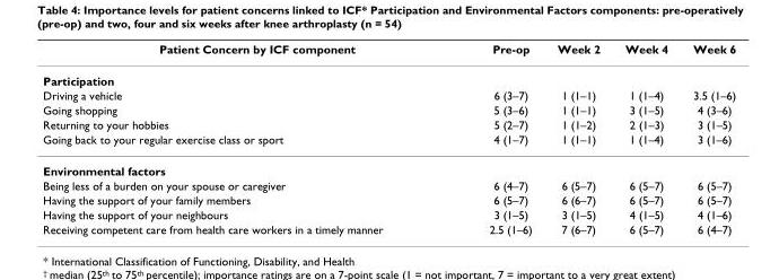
<table><thead><tr><td>Patient Concern by ICF component</td><td>Pre-op</td><td>Week 2</td><td>Week 4</td><td>Week 6</td></tr></thead><tbody><tr><td colspan="5">Participation</td></tr><tr><td>Driving a vehicle</td><td>6 (3–7)</td><td>1 (1–1)</td><td>1 (1–4)</td><td>3.5 (1–6)</td></tr><tr><td>Going shopping</td><td>5 (3–6)</td><td>1 (1–1)</td><td>3 (1–5)</td><td>4 (3–6)</td></tr><tr><td>Returning to your hobbies</td><td>5 (2–7)</td><td>1 (1–2)</td><td>2 (1–3)</td><td>3 (1–5)</td></tr><tr><td>Going back to your regular exercise class or sport</td><td>4 (1–7)</td><td>1 (1–1)</td><td>1 (1–4)</td><td>3 (1–6)</td></tr><tr><td colspan="5">Environmental factors</td></tr><tr><td>Being less of a burden on your spouse or caregiver</td><td>6 (4–7)</td><td>6 (5–7)</td><td>6 (5–7)</td><td>6 (5–7)</td></tr><tr><td>Having the support of your family members</td><td>6 (5–7)</td><td>6 (6–7)</td><td>6 (5–7)</td><td>6 (5–7)</td></tr><tr><td>Having the support of your neighbours</td><td>3 (1–5)</td><td>3 (1–5)</td><td>4 (1–5)</td><td>4 (1–6)</td></tr><tr><td>Receiving competent care from health care workers in a timely manner</td><td>2.5 (1–6)</td><td>7 (6–7)</td><td>6 (5–7)</td><td>6 (4–7)</td></tr></tbody></table>